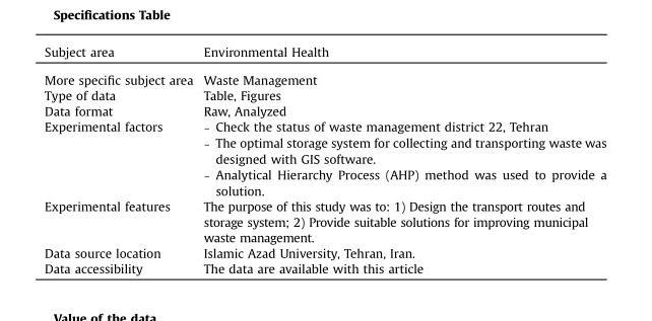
<table><thead><tr><td>Subject area</td><td>Environmental Health</td></tr></thead><tbody><tr><td>More specific subject area</td><td>Waste Management</td></tr><tr><td>Type of data</td><td>Table, Figures</td></tr><tr><td>Data format</td><td>Raw, Analyzed</td></tr><tr><td>Experimental factors</td><td>– Check the status of waste management district 22, Tehran – The optimal storage system for collecting and transporting waste was designed with GIS software. – Analytical Hierarchy Process (AHP) method was used to provide a solution.</td></tr><tr><td>Experimental features</td><td>The purpose of this study was to: 1) Design the transport routes and storage system; 2) Provide suitable solutions for improving municipal waste management.</td></tr><tr><td>Data source location</td><td>Islamic Azad University, Tehran, Iran.</td></tr><tr><td>Data accessibility</td><td>The data are available with this article</td></tr></tbody></table>